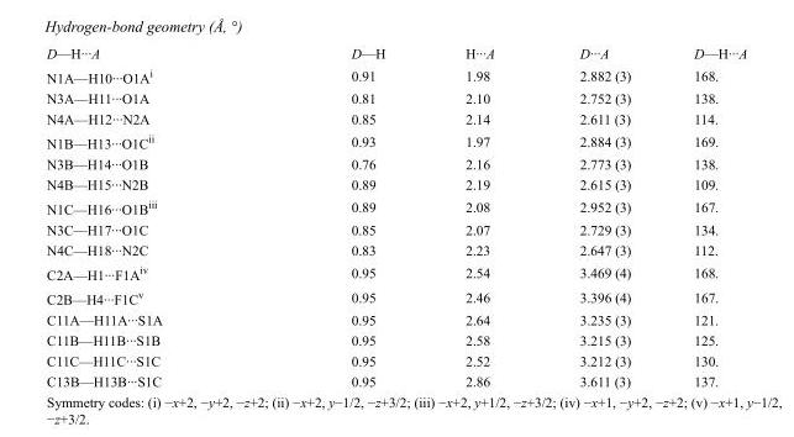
<table><tbody><tr><td>D—H···A</td><td>D—H</td><td>H···A</td><td>D···A</td><td>D—H···A</td></tr><tr><td>N1A—H10···O1A<sup>i</sup></td><td>0.91</td><td>1.98</td><td>2.882 (3)</td><td>168.</td></tr><tr><td>N3A—H11···O1A</td><td>0.81</td><td>2.10</td><td>2.752 (3)</td><td>138.</td></tr><tr><td>N4A—H12···N2A</td><td>0.85</td><td>2.14</td><td>2.611 (3)</td><td>114.</td></tr><tr><td>N1B—H13···O1C<sup>ii</sup></td><td>0.93</td><td>1.97</td><td>2.884 (3)</td><td>169.</td></tr><tr><td>N3B—H14···O1B</td><td>0.76</td><td>2.16</td><td>2.773 (3)</td><td>138.</td></tr><tr><td>N4B—H15···N2B</td><td>0.89</td><td>2.19</td><td>2.615 (3)</td><td>109.</td></tr><tr><td>N1C—H16···O1B<sup>iii</sup></td><td>0.89</td><td>2.08</td><td>2.952 (3)</td><td>167.</td></tr><tr><td>N3C—H17···O1C</td><td>0.85</td><td>2.07</td><td>2.729 (3)</td><td>134.</td></tr><tr><td>N4C—H18···N2C</td><td>0.83</td><td>2.23</td><td>2.647 (3)</td><td>112.</td></tr><tr><td>C2A—H1···F1A<sup>iv</sup></td><td>0.95</td><td>2.54</td><td>3.469 (4)</td><td>168.</td></tr><tr><td>C2B—H4···F1C<sup>v</sup></td><td>0.95</td><td>2.46</td><td>3.396 (4)</td><td>167.</td></tr><tr><td>C11A—H11A···S1A</td><td>0.95</td><td>2.64</td><td>3.235 (3)</td><td>121.</td></tr><tr><td>C11B—H11B···S1B</td><td>0.95</td><td>2.58</td><td>3.215 (3)</td><td>125.</td></tr><tr><td>C11C—H11C···S1C</td><td>0.95</td><td>2.52</td><td>3.212 (3)</td><td>130.</td></tr><tr><td>C13B—H13B···S1C</td><td>0.95</td><td>2.86</td><td>3.611 (3)</td><td>137.</td></tr></tbody></table>